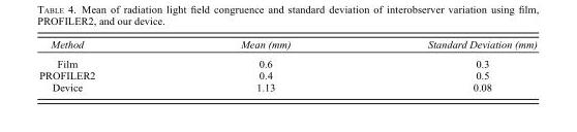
<table><thead><tr><td>Method</td><td>Mean (mm)</td><td>Standard Deviation (mm)</td></tr></thead><tbody><tr><td>Film</td><td>0.6</td><td>0.3</td></tr><tr><td>PROFILER2</td><td>0.4</td><td>0.5</td></tr><tr><td>Device</td><td>1.13</td><td>0.08</td></tr></tbody></table>